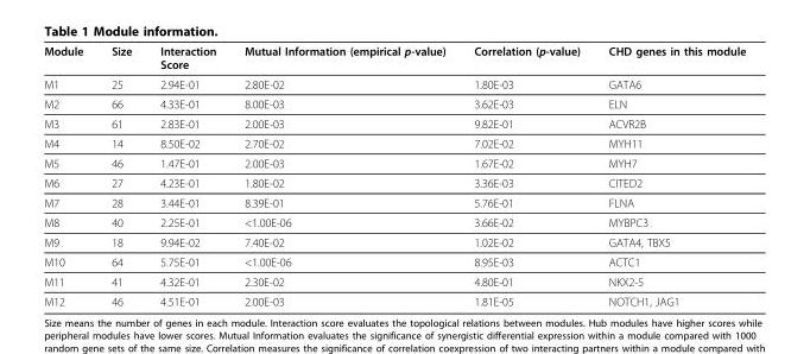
<table><thead><tr><td>Module</td><td>Size</td><td>Interaction Score</td><td>Mutual Information (empirical p-value)</td><td>Correlation (p-value)</td><td>CHD genes in this module</td></tr></thead><tbody><tr><td>M1</td><td>25</td><td>2.94E-01</td><td>2.80E-02</td><td>1.80E-03</td><td>GATA6</td></tr><tr><td>M2</td><td>66</td><td>4.33E-01</td><td>8.00E-03</td><td>3.62E-03</td><td>ELN</td></tr><tr><td>M3</td><td>61</td><td>2.83E-01</td><td>2.00E-03</td><td>9.82E-01</td><td>ACVR2B</td></tr><tr><td>M4</td><td>14</td><td>8.50E-02</td><td>2.70E-02</td><td>7.02E-02</td><td>MYH11</td></tr><tr><td>M5</td><td>46</td><td>1.47E-01</td><td>2.00E-03</td><td>1.67E-02</td><td>MYH7</td></tr><tr><td>M6</td><td>27</td><td>4.23E-01</td><td>1.80E-02</td><td>3.36E-03</td><td>CITED2</td></tr><tr><td>M7</td><td>28</td><td>3.44E-01</td><td>8.39E-01</td><td>5.76E-01</td><td>FLNA</td></tr><tr><td>M8</td><td>40</td><td>2.25E-01</td><td>&lt;1.00E-06</td><td>3.66E-02</td><td>MYBPC3</td></tr><tr><td>M9</td><td>18</td><td>9.94E-02</td><td>7.40E-02</td><td>1.02E-02</td><td>GATA4, TBX5</td></tr><tr><td>M10</td><td>64</td><td>5.75E-01</td><td>&lt;1.00E-06</td><td>8.95E-03</td><td>ACTC1</td></tr><tr><td>M11</td><td>41</td><td>4.32E-01</td><td>2.30E-02</td><td>4.80E-01</td><td>NKX2-5</td></tr><tr><td>M12</td><td>46</td><td>4.51E-01</td><td>2.00E-03</td><td>1.81E-05</td><td>NOTCH1, JAG1</td></tr></tbody></table>